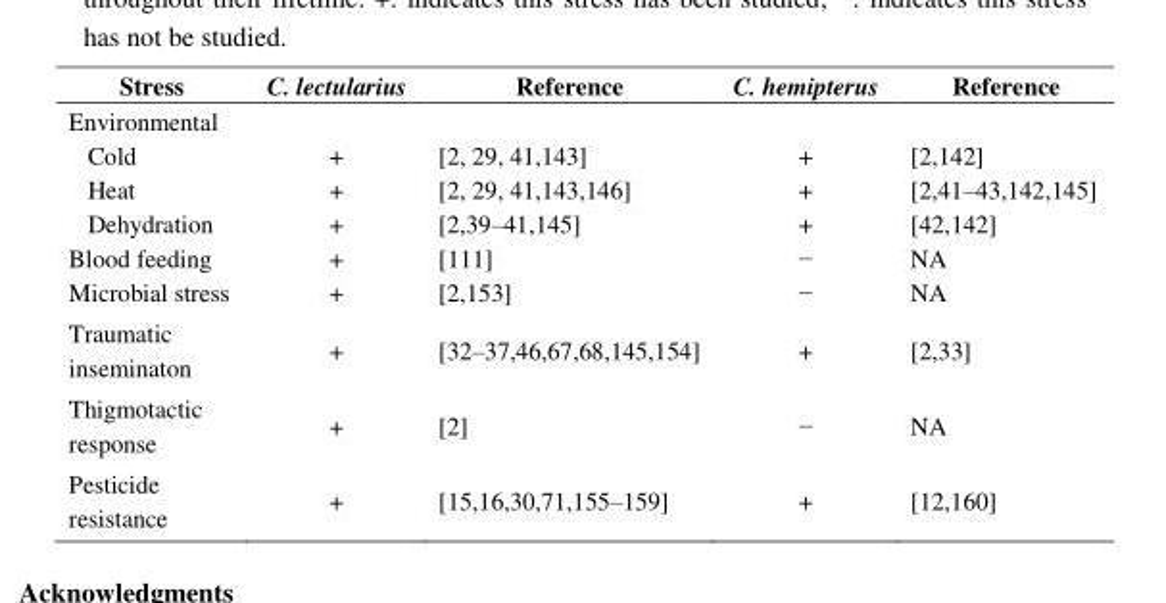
<table><thead><tr><td>Stress</td><td>C. lectularius</td><td>Reference</td><td>C. hemipterus</td><td>Reference</td></tr></thead><tbody><tr><td colspan="5">Environmental</td></tr><tr><td>Cold</td><td>+</td><td>[2, 29, 41,143]</td><td>+</td><td>[2,142]</td></tr><tr><td>Heat</td><td>+</td><td>[2, 29, 41,143,146]</td><td>+</td><td>[2,41–43,142,145]</td></tr><tr><td>Dehydration</td><td>+</td><td>[2,39–41,145]</td><td>+</td><td>[42,142]</td></tr><tr><td>Blood feeding</td><td>+</td><td>[111]</td><td>−</td><td>NA</td></tr><tr><td>Microbial stress</td><td>+</td><td>[2,153]</td><td>−</td><td>NA</td></tr><tr><td>Traumatic inseminaton</td><td>+</td><td>[32–37,46,67,68,145,154]</td><td>+</td><td>[2,33]</td></tr><tr><td>Thigmotactic response</td><td>+</td><td>[2]</td><td>−</td><td>NA</td></tr><tr><td>Pesticide resistance</td><td>+</td><td>[15,16,30,71,155–159]</td><td>+</td><td>[12,160]</td></tr></tbody></table>